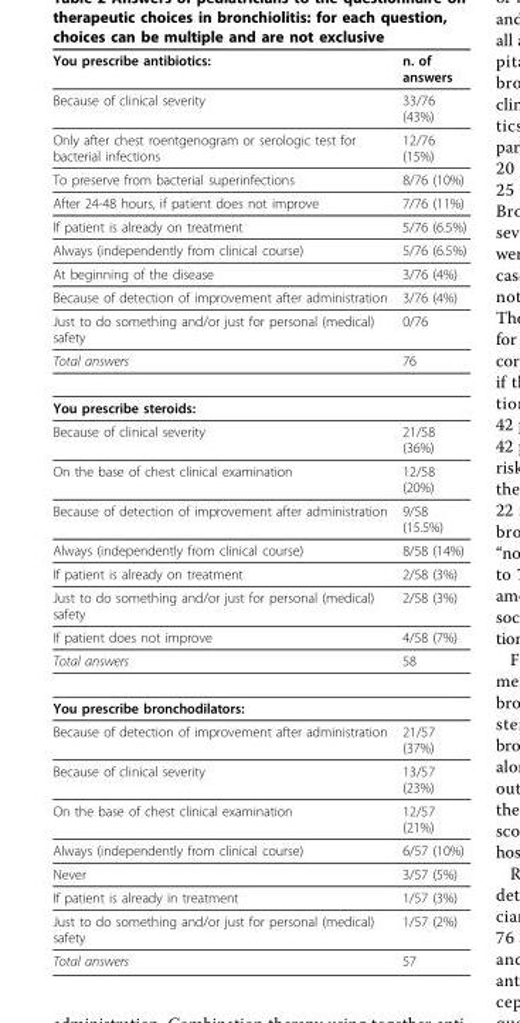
<table><thead><tr><td>You prescribe antibiotics:</td><td>n. of answers</td></tr></thead><tbody><tr><td>Because of clinical severity</td><td>33/76 (43%)</td></tr><tr><td>Only after chest roentgenogram or serologic test for bacterial infections</td><td>12/76 (15%)</td></tr><tr><td>To preserve from bacterial superinfections</td><td>8/76 (10%)</td></tr><tr><td>After 24-48 hours, if patient does not improve</td><td>7/76 (11%)</td></tr><tr><td>If patient is already on treatment</td><td>5/76 (6.5%)</td></tr><tr><td>Always (independently from clinical course)</td><td>5/76 (6.5%)</td></tr><tr><td>At beginning of the disease</td><td>3/76 (4%)</td></tr><tr><td>Because of detection of improvement after administration</td><td>3/76 (4%)</td></tr><tr><td>Just to do something and/or just for personal (medical) safety</td><td>0/76</td></tr><tr><td>Total answers</td><td>76</td></tr><tr><td colspan="2">You prescribe steroids:</td></tr><tr><td>Because of clinical severity</td><td>21/58 (36%)</td></tr><tr><td>On the base of chest clinical examination</td><td>12/58 (20%)</td></tr><tr><td>Because of detection of improvement after administration</td><td>9/58 (15.5%)</td></tr><tr><td>Always (independently from clinical course)</td><td>8/58 (14%)</td></tr><tr><td>If patient is already on treatment</td><td>2/58 (3%)</td></tr><tr><td>Just to do something and/or just for personal (medical) safety</td><td>2/58 (3%)</td></tr><tr><td>If patient does not improve</td><td>4/58 (7%)</td></tr><tr><td>Total answers</td><td>58</td></tr><tr><td colspan="2">You prescribe bronchodilators:</td></tr><tr><td>Because of detection of improvement after administration</td><td>21/57 (37%)</td></tr><tr><td>Because of clinical severity</td><td>13/57 (23%)</td></tr><tr><td>On the base of chest clinical examination</td><td>12/57 (21%)</td></tr><tr><td>Always (independently from clinical course)</td><td>6/57 (10%)</td></tr><tr><td>Never</td><td>3/57 (5%)</td></tr><tr><td>If patient is already in treatment</td><td>1/57 (3%)</td></tr><tr><td>Just to do something and/or just for personal (medical) safety</td><td>1/57 (2%)</td></tr><tr><td>Total answers</td><td>57</td></tr></tbody></table>